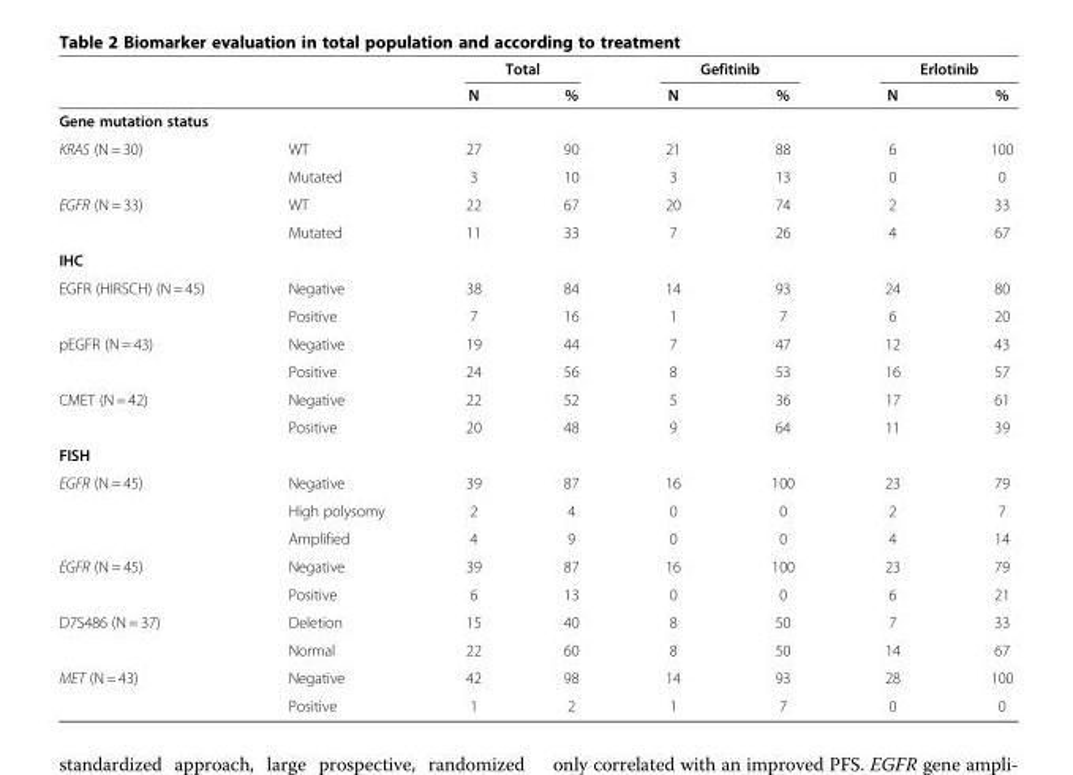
<table><thead><tr><td rowspan="2"></td><td rowspan="2"></td><td colspan="2">Total</td><td colspan="2">Gefitinib</td><td colspan="2">Erlotinib</td></tr><tr><td>N</td><td>%</td><td>N</td><td>%</td><td>N</td><td>%</td></tr></thead><tbody><tr><td colspan="8">Gene mutation status</td></tr><tr><td rowspan="2">KRAS (N = 30)</td><td>WT</td><td>27</td><td>90</td><td>21</td><td>88</td><td>6</td><td>100</td></tr><tr><td>Mutated</td><td>3</td><td>10</td><td>3</td><td>13</td><td>0</td><td>0</td></tr><tr><td rowspan="2">EGFR (N = 33)</td><td>WT</td><td>22</td><td>67</td><td>20</td><td>74</td><td>2</td><td>33</td></tr><tr><td>Mutated</td><td>11</td><td>33</td><td>7</td><td>26</td><td>4</td><td>67</td></tr><tr><td colspan="8">IHC</td></tr><tr><td rowspan="2">EGFR (HIRSCH) (N = 45)</td><td>Negative</td><td>38</td><td>84</td><td>14</td><td>93</td><td>24</td><td>80</td></tr><tr><td>Positive</td><td>7</td><td>16</td><td>1</td><td>7</td><td>6</td><td>20</td></tr><tr><td rowspan="2">pEGFR (N = 43)</td><td>Negative</td><td>19</td><td>44</td><td>7</td><td>47</td><td>12</td><td>43</td></tr><tr><td>Positive</td><td>24</td><td>56</td><td>8</td><td>53</td><td>16</td><td>57</td></tr><tr><td rowspan="2">CMET (N = 42)</td><td>Negative</td><td>22</td><td>52</td><td>5</td><td>36</td><td>17</td><td>61</td></tr><tr><td>Positive</td><td>20</td><td>48</td><td>9</td><td>64</td><td>11</td><td>39</td></tr><tr><td colspan="8">FISH</td></tr><tr><td rowspan="3">EGFR (N = 45)</td><td>Negative</td><td>39</td><td>87</td><td>16</td><td>100</td><td>23</td><td>79</td></tr><tr><td>High polysomy</td><td>2</td><td>4</td><td>0</td><td>0</td><td>2</td><td>7</td></tr><tr><td>Amplified</td><td>4</td><td>9</td><td>0</td><td>0</td><td>4</td><td>14</td></tr><tr><td rowspan="2">EGFR (N = 45)</td><td>Negative</td><td>39</td><td>87</td><td>16</td><td>100</td><td>23</td><td>79</td></tr><tr><td>Positive</td><td>6</td><td>13</td><td>0</td><td>0</td><td>6</td><td>21</td></tr><tr><td rowspan="2">D7S486 (N = 37)</td><td>Deletion</td><td>15</td><td>40</td><td>8</td><td>50</td><td>7</td><td>33</td></tr><tr><td>Normal</td><td>22</td><td>60</td><td>8</td><td>50</td><td>14</td><td>67</td></tr><tr><td rowspan="2">MET (N = 43)</td><td>Negative</td><td>42</td><td>98</td><td>14</td><td>93</td><td>28</td><td>100</td></tr><tr><td>Positive</td><td>1</td><td>2</td><td>1</td><td>7</td><td>0</td><td>0</td></tr></tbody></table>